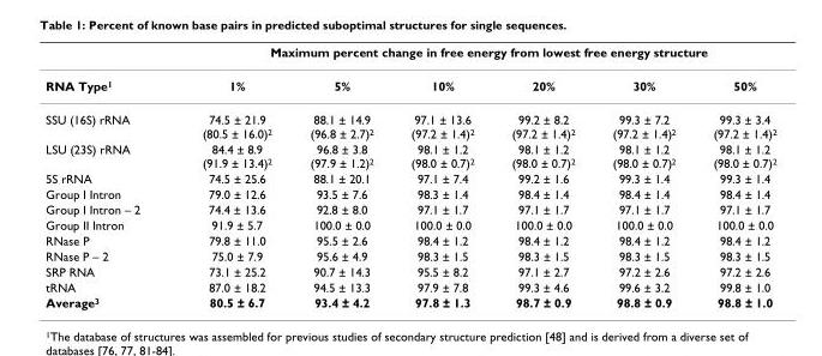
<table><thead><tr><td rowspan="2">RNA Type1</td><td colspan="6">Maximum percent change in free energy from lowest free energy structure</td></tr><tr><td>1%</td><td>5%</td><td>10%</td><td>20%</td><td>30%</td><td>50%</td></tr></thead><tbody><tr><td>SSU (16S) rRNA</td><td>74.5 ± 21.9 (80.5 ± 16.0)2</td><td>88.1 ± 14.9 (96.8 ± 2.7)2</td><td>97.1 ± 13.6 (97.2 ± 1.4)2</td><td>99.2 ± 8.2 (97.2 ± 1.4)2</td><td>99.3 ± 7.2 (97.2 ± 1.4)2</td><td>99.3 ± 3.4 (97.2 ± 1.4)2</td></tr><tr><td>LSU (23S) rRNA</td><td>84.4 ± 8.9 (91.9 ± 13.4)2</td><td>96.8 ± 3.8 (97.9 ± 1.2)2</td><td>98.1 ± 1.2 (98.0 ± 0.7)2</td><td>98.1 ± 1.2 (98.0 ± 0.7)2</td><td>98.1 ± 1.2 (98.0 ± 0.7)2</td><td>98.1 ± 1.2 (98.0 ± 0.7)2</td></tr><tr><td>5S rRNA</td><td>74.5 ± 25.6</td><td>88.1 ± 20.1</td><td>97.1 ± 7.4</td><td>99.2 ± 1.6</td><td>99.3 ± 1.4</td><td>99.3 ± 1.4</td></tr><tr><td>Group I Intron</td><td>79.0 ± 12.6</td><td>93.5 ± 7.6</td><td>98.3 ± 1.4</td><td>98.4 ± 1.4</td><td>98.4 ± 1.4</td><td>98.4 ± 1.4</td></tr><tr><td>Group I Intron – 2</td><td>74.4 ± 13.6</td><td>92.8 ± 8.0</td><td>97.1 ± 1.7</td><td>97.1 ± 1.7</td><td>97.1 ± 1.7</td><td>97.1 ± 1.7</td></tr><tr><td>Group II Intron</td><td>91.9 ± 5.7</td><td>100.0 ± 0.0</td><td>100.0 ± 0.0</td><td>100.0 ± 0.0</td><td>100.0 ± 0.0</td><td>100.0 ± 0.0</td></tr><tr><td>RNase P</td><td>79.8 ± 11.0</td><td>95.5 ± 2.6</td><td>98.4 ± 1.2</td><td>98.4 ± 1.2</td><td>98.4 ± 1.2</td><td>98.4 ± 1.2</td></tr><tr><td>RNase P – 2</td><td>75.0 ± 7.9</td><td>95.6 ± 4.9</td><td>98.3 ± 1.5</td><td>98.3 ± 1.5</td><td>98.3 ± 1.5</td><td>98.3 ± 1.5</td></tr><tr><td>SRP RNA</td><td>73.1 ± 25.2</td><td>90.7 ± 14.3</td><td>95.5 ± 8.2</td><td>97.1 ± 2.7</td><td>97.2 ± 2.6</td><td>97.2 ± 2.6</td></tr><tr><td>tRNA</td><td>87.0 ± 18.2</td><td>94.5 ± 13.3</td><td>97.9 ± 7.8</td><td>99.3 ± 4.6</td><td>99.6 ± 3.2</td><td>99.8 ± 1.0</td></tr><tr><td>Average3</td><td>80.5 ± 6.7</td><td>93.4 ± 4.2</td><td>97.8 ± 1.3</td><td>98.7 ± 0.9</td><td>98.8 ± 0.9</td><td>98.8 ± 1.0</td></tr></tbody></table>